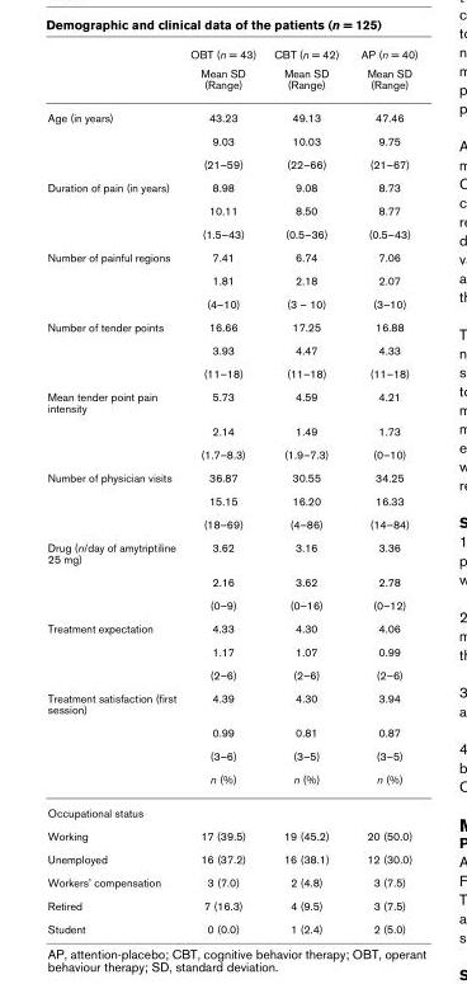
<table><thead><tr><td rowspan="2"></td><td rowspan="2">OBT (n = 43) Mean SD (Range)</td><td rowspan="2">CBT (n = 42) Mean SD (Range)</td><td rowspan="2">AP (n = 40) Mean SD (Range)</td></tr><tr></tr></thead><tbody><tr><td rowspan="3">Age (in years)</td><td>43.23</td><td>49.13</td><td>47.46</td></tr><tr><td>9.03</td><td>10.03</td><td>9.75</td></tr><tr><td>(21–59)</td><td>(22–66)</td><td>(21–67)</td></tr><tr><td rowspan="3">Duration of pain (in years)</td><td>8.98</td><td>9.08</td><td>8.73</td></tr><tr><td>10.11</td><td>8.50</td><td>8.77</td></tr><tr><td>(1.5–43)</td><td>(0.5–36)</td><td>(0.5–43)</td></tr><tr><td rowspan="3">Number of painful regions</td><td>7.41</td><td>6.74</td><td>7.06</td></tr><tr><td>1.81</td><td>2.18</td><td>2.07</td></tr><tr><td>(4–10)</td><td>(3 – 10)</td><td>(3–10)</td></tr><tr><td rowspan="3">Number of tender points</td><td>16.66</td><td>17.25</td><td>16.88</td></tr><tr><td>3.93</td><td>4.47</td><td>4.33</td></tr><tr><td>(11–18)</td><td>(11–18)</td><td>(11–18)</td></tr><tr><td rowspan="3">Mean tender point pain intensity</td><td>5.73</td><td>4.59</td><td>4.21</td></tr><tr><td>2.14</td><td>1.49</td><td>1.73</td></tr><tr><td>(1.7–8.3)</td><td>(1.9–7.3)</td><td>(0–10)</td></tr><tr><td rowspan="3">Number of physician visits</td><td>36.87</td><td>30.55</td><td>34.25</td></tr><tr><td>15.15</td><td>16.20</td><td>16.33</td></tr><tr><td>(18–69)</td><td>(4–86)</td><td>(14–84)</td></tr><tr><td rowspan="3">Drug (n/day of amytriptiline 25 mg)</td><td>3.62</td><td>3.16</td><td>3.36</td></tr><tr><td>2.16</td><td>3.62</td><td>2.78</td></tr><tr><td>(0–9)</td><td>(0–16)</td><td>(0–12)</td></tr><tr><td rowspan="3">Treatment expectation</td><td>4.33</td><td>4.30</td><td>4.06</td></tr><tr><td>1.17</td><td>1.07</td><td>0.99</td></tr><tr><td>(2–6)</td><td>(2–6)</td><td>(2–6)</td></tr><tr><td rowspan="4">Treatment satisfaction (first session)</td><td>4.39</td><td>4.30</td><td>3.94</td></tr><tr><td>0.99</td><td>0.81</td><td>0.87</td></tr><tr><td>(3–6)</td><td>(3–5)</td><td>(3–5)</td></tr><tr><td>n (%)</td><td>n (%)</td><td>n (%)</td></tr><tr><td colspan="4">Occupational status</td></tr><tr><td>Working</td><td>17 (39.5)</td><td>19 (45.2)</td><td>20 (50.0)</td></tr><tr><td>Unemployed</td><td>16 (37.2)</td><td>16 (38.1)</td><td>12 (30.0)</td></tr><tr><td>Workers&#x27; compensation</td><td>3 (7.0)</td><td>2 (4.8)</td><td>3 (7.5)</td></tr><tr><td>Retired</td><td>7 (16.3)</td><td>4 (9.5)</td><td>3 (7.5)</td></tr><tr><td>Student</td><td>0 (0.0)</td><td>1 (2.4)</td><td>2 (5.0)</td></tr></tbody></table>